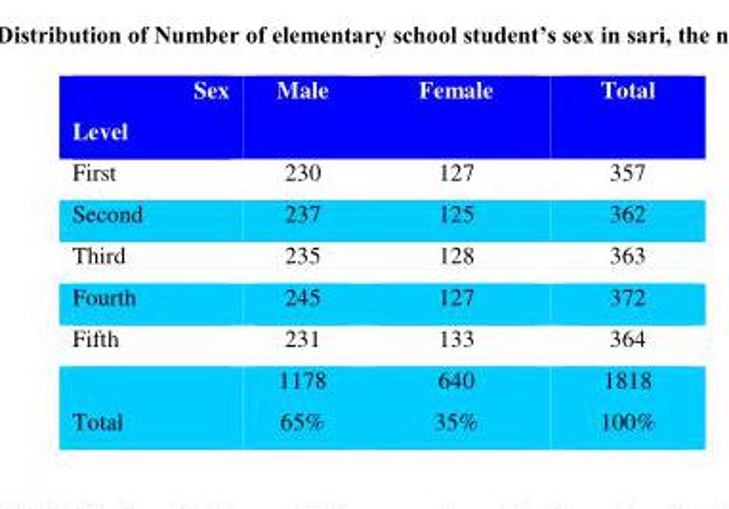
<table><thead><tr><td>Sex Level</td><td>Male</td><td>Female</td><td>Total</td></tr></thead><tbody><tr><td>First</td><td>230</td><td>127</td><td>357</td></tr><tr><td>Second</td><td>237</td><td>125</td><td>362</td></tr><tr><td>Third</td><td>235</td><td>128</td><td>363</td></tr><tr><td>Fourth</td><td>245</td><td>127</td><td>372</td></tr><tr><td>Fifth</td><td>231</td><td>133</td><td>364</td></tr><tr><td>Total</td><td>1178 65%</td><td>640 35%</td><td>1818 100%</td></tr></tbody></table>